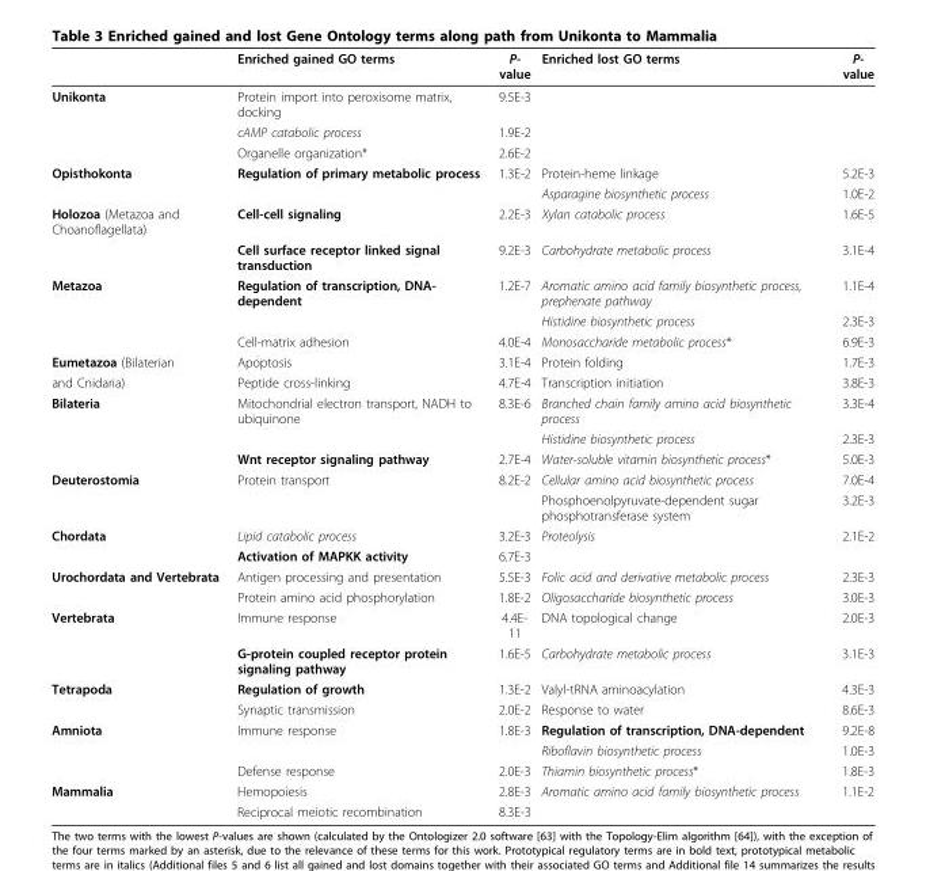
<table><thead><tr><td></td><td>Enriched gained GO terms</td><td>P- value</td><td>Enriched lost GO terms</td><td>P- value</td></tr></thead><tbody><tr><td rowspan="3">Unikonta</td><td>Protein import into peroxisome matrix, docking</td><td>9.5E-3</td><td></td><td></td></tr><tr><td>cAMP catabolic process</td><td>1.9E-2</td><td></td><td></td></tr><tr><td>Organelle organization*</td><td>2.6E-2</td><td></td><td></td></tr><tr><td rowspan="2">Opisthokonta</td><td>Regulation of primary metabolic process</td><td>1.3E-2</td><td>Protein-heme linkage</td><td>5.2E-3</td></tr><tr><td></td><td></td><td>Asparagine biosynthetic process</td><td>1.0E-2</td></tr><tr><td rowspan="2">Holozoa (Metazoa and Choanoflagellata)</td><td>Cell-cell signaling</td><td>2.2E-3</td><td>Xylan catabolic process</td><td>1.6E-5</td></tr><tr><td>Cell surface receptor linked signal transduction</td><td>9.2E-3</td><td>Carbohydrate metabolic process</td><td>3.1E-4</td></tr><tr><td rowspan="3">Metazoa</td><td>Regulation of transcription, DNA- dependent</td><td>1.2E-7</td><td>Aromatic amino acid family biosynthetic process, prephenate pathway</td><td>1.1E-4</td></tr><tr><td></td><td></td><td>Histidine biosynthetic process</td><td>2.3E-3</td></tr><tr><td>Cell-matrix adhesion</td><td>4.0E-4</td><td>Monosaccharide metabolic process*</td><td>6.9E-3</td></tr><tr><td>Eumetazoa (Bilaterian</td><td>Apoptosis</td><td>3.1E-4</td><td>Protein folding</td><td>1.7E-3</td></tr><tr><td>and Cnidaria)</td><td>Peptide cross-linking</td><td>4.7E-4</td><td>Transcription initiation</td><td>3.8E-3</td></tr><tr><td rowspan="3">Bilateria</td><td>Mitochondrial electron transport, NADH to ubiquinone</td><td>8.3E-6</td><td>Branched chain family amino acid biosynthetic process</td><td>3.3E-4</td></tr><tr><td></td><td></td><td>Histidine biosynthetic process</td><td>2.3E-3</td></tr><tr><td>Wnt receptor signaling pathway</td><td>2.7E-4</td><td>Water-soluble vitamin biosynthetic process*</td><td>5.0E-3</td></tr><tr><td rowspan="2">Deuterostomia</td><td>Protein transport</td><td>8.2E-2</td><td>Cellular amino acid biosynthetic process</td><td>7.0E-4</td></tr><tr><td></td><td></td><td>Phosphoenolpyruvate-dependent sugar phosphotransferase system</td><td>3.2E-3</td></tr><tr><td rowspan="2">Chordata</td><td>Lipid catabolic process</td><td>3.2E-3</td><td>Proteolysis</td><td>2.1E-2</td></tr><tr><td>Activation of MAPKK activity</td><td>6.7E-3</td><td></td><td></td></tr><tr><td rowspan="2">Urochordata and Vertebrata</td><td>Antigen processing and presentation</td><td>5.5E-3</td><td>Folic acid and derivative metabolic process</td><td>2.3E-3</td></tr><tr><td>Protein amino acid phosphorylation</td><td>1.8E-2</td><td>Oligosaccharide biosynthetic process</td><td>3.0E-3</td></tr><tr><td rowspan="2">Vertebrata</td><td>Immune response</td><td>4.4E- 11</td><td>DNA topological change</td><td>2.0E-3</td></tr><tr><td>G-protein coupled receptor protein signaling pathway</td><td>1.6E-5</td><td>Carbohydrate metabolic process</td><td>3.1E-3</td></tr><tr><td rowspan="2">Tetrapoda</td><td>Regulation of growth</td><td>1.3E-2</td><td>Valyl-tRNA aminoacylation</td><td>4.3E-3</td></tr><tr><td>Synaptic transmission</td><td>2.0E-2</td><td>Response to water</td><td>8.6E-3</td></tr><tr><td rowspan="3">Amniota</td><td>Immune response</td><td>1.8E-3</td><td>Regulation of transcription, DNA-dependent</td><td>9.2E-8</td></tr><tr><td></td><td></td><td>Riboflavin biosynthetic process</td><td>1.0E-3</td></tr><tr><td>Defense response</td><td>2.0E-3</td><td>Thiamin biosynthetic process*</td><td>1.8E-3</td></tr><tr><td rowspan="2">Mammalia</td><td>Hemopoiesis</td><td>2.8E-3</td><td>Aromatic amino acid family biosynthetic process</td><td>1.1E-2</td></tr><tr><td>Reciprocal meiotic recombination</td><td>8.3E-3</td><td></td><td></td></tr></tbody></table>